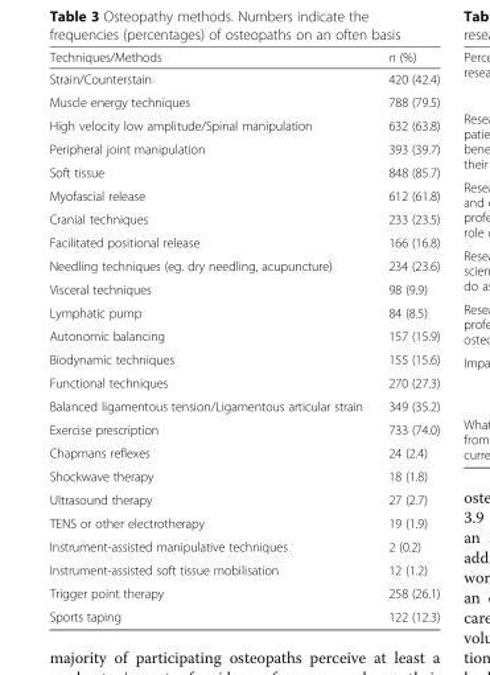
<table><thead><tr><td>Techniques/Methods</td><td>n (%)</td></tr></thead><tbody><tr><td>Strain/Counterstain</td><td>420 (42.4)</td></tr><tr><td>Muscle energy techniques</td><td>788 (79.5)</td></tr><tr><td>High velocity low amplitude/Spinal manipulation</td><td>632 (63.8)</td></tr><tr><td>Peripheral joint manipulation</td><td>393 (39.7)</td></tr><tr><td>Soft tissue</td><td>848 (85.7)</td></tr><tr><td>Myofascial release</td><td>612 (61.8)</td></tr><tr><td>Cranial techniques</td><td>233 (23.5)</td></tr><tr><td>Facilitated positional release</td><td>166 (16.8)</td></tr><tr><td>Needling techniques (eg. dry needling, acupuncture)</td><td>234 (23.6)</td></tr><tr><td>Visceral techniques</td><td>98 (9.9)</td></tr><tr><td>Lymphatic pump</td><td>84 (8.5)</td></tr><tr><td>Autonomic balancing</td><td>157 (15.9)</td></tr><tr><td>Biodynamic techniques</td><td>155 (15.6)</td></tr><tr><td>Functional techniques</td><td>270 (27.3)</td></tr><tr><td>Balanced ligamentous tension/Ligamentous articular strain</td><td>349 (35.2)</td></tr><tr><td>Exercise prescription</td><td>733 (74.0)</td></tr><tr><td>Chapmans reflexes</td><td>24 (2.4)</td></tr><tr><td>Shockwave therapy</td><td>18 (1.8)</td></tr><tr><td>Ultrasound therapy</td><td>27 (2.7)</td></tr><tr><td>TENS or other electrotherapy</td><td>19 (1.9)</td></tr><tr><td>Instrument-assisted manipulative techniques</td><td>2 (0.2)</td></tr><tr><td>Instrument-assisted soft tissue mobilisation</td><td>12 (1.2)</td></tr><tr><td>Trigger point therapy</td><td>258 (26.1)</td></tr><tr><td>Sports taping</td><td>122 (12.3)</td></tr></tbody></table>